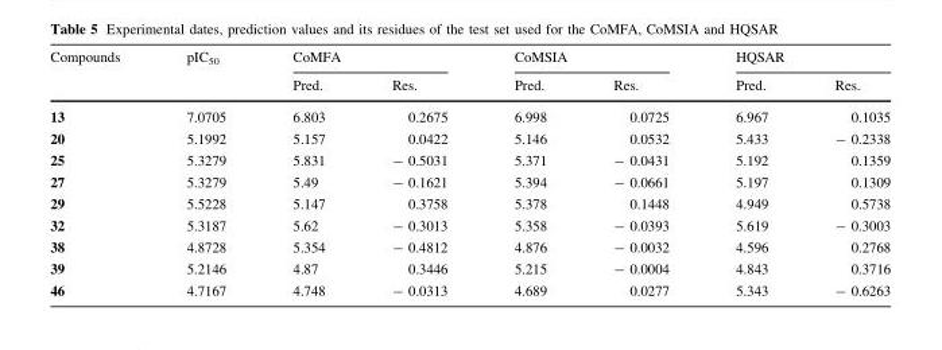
<table><thead><tr><td rowspan="2">Compounds</td><td rowspan="2">pIC<sub>50</sub></td><td colspan="2">CoMFA</td><td colspan="2">CoMSIA</td><td colspan="2">HQSAR</td></tr><tr><td>Pred.</td><td>Res.</td><td>Pred.</td><td>Res.</td><td>Pred.</td><td>Res.</td></tr></thead><tbody><tr><td>13</td><td>7.0705</td><td>6.803</td><td>0.2675</td><td>6.998</td><td>0.0725</td><td>6.967</td><td>0.1035</td></tr><tr><td>20</td><td>5.1992</td><td>5.157</td><td>0.0422</td><td>5.146</td><td>0.0532</td><td>5.433</td><td>- 0.2338</td></tr><tr><td>25</td><td>5.3279</td><td>5.831</td><td>- 0.5031</td><td>5.371</td><td>- 0.0431</td><td>5.192</td><td>0.1359</td></tr><tr><td>27</td><td>5.3279</td><td>5.49</td><td>- 0.1621</td><td>5.394</td><td>- 0.0661</td><td>5.197</td><td>0.1309</td></tr><tr><td>29</td><td>5.5228</td><td>5.147</td><td>0.3758</td><td>5.378</td><td>0.1448</td><td>4.949</td><td>0.5738</td></tr><tr><td>32</td><td>5.3187</td><td>5.62</td><td>- 0.3013</td><td>5.358</td><td>- 0.0393</td><td>5.619</td><td>- 0.3003</td></tr><tr><td>38</td><td>4.8728</td><td>5.354</td><td>- 0.4812</td><td>4.876</td><td>- 0.0032</td><td>4.596</td><td>0.2768</td></tr><tr><td>39</td><td>5.2146</td><td>4.87</td><td>0.3446</td><td>5.215</td><td>- 0.0004</td><td>4.843</td><td>0.3716</td></tr><tr><td>46</td><td>4.7167</td><td>4.748</td><td>- 0.0313</td><td>4.689</td><td>0.0277</td><td>5.343</td><td>- 0.6263</td></tr></tbody></table>